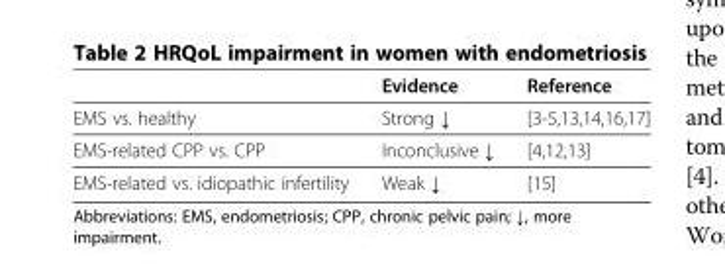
<table><thead><tr><td></td><td>Evidence</td><td>Reference</td></tr></thead><tbody><tr><td>EMS vs. healthy</td><td>Strong ↓</td><td>[3-5,13,14,16,17]</td></tr><tr><td>EMS-related CPP vs. CPP</td><td>Inconclusive ↓</td><td>[4,12,13]</td></tr><tr><td>EMS-related vs. idiopathic infertility</td><td>Weak ↓</td><td>[15]</td></tr></tbody></table>